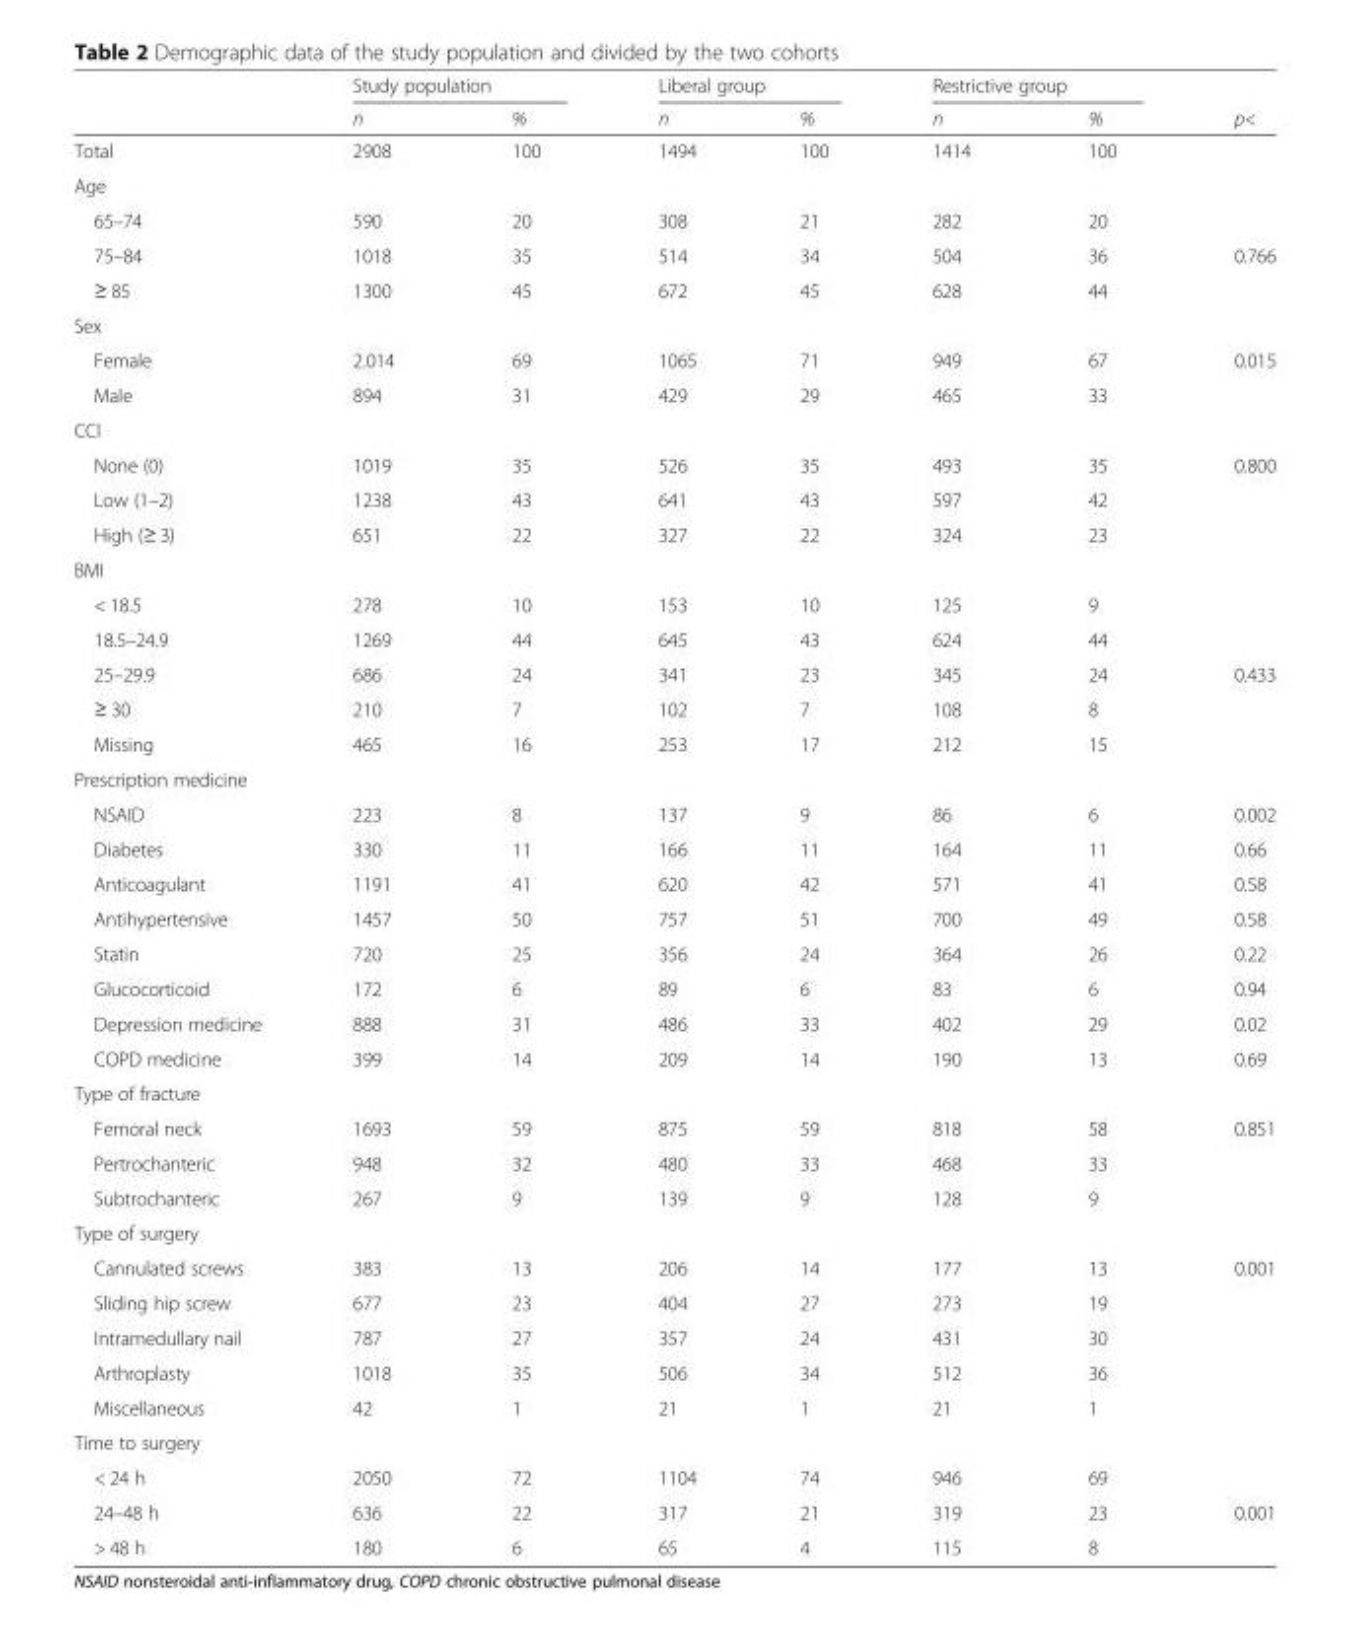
<table><thead><tr><td rowspan="2"></td><td colspan="2">Study population</td><td colspan="2">Liberal group</td><td colspan="2">Restrictive group</td><td rowspan="2">p&lt;</td></tr><tr><td>n</td><td>%</td><td>n</td><td>%</td><td>n</td><td>%</td></tr></thead><tbody><tr><td>Total</td><td>2908</td><td>100</td><td>1494</td><td>100</td><td>1414</td><td>100</td><td></td></tr><tr><td colspan="8">Age</td></tr><tr><td>65–74</td><td>590</td><td>20</td><td>308</td><td>21</td><td>282</td><td>20</td><td></td></tr><tr><td>75–84</td><td>1018</td><td>35</td><td>514</td><td>34</td><td>504</td><td>36</td><td>0.766</td></tr><tr><td>≥ 85</td><td>1300</td><td>45</td><td>672</td><td>45</td><td>628</td><td>44</td><td></td></tr><tr><td colspan="8">Sex</td></tr><tr><td>Female</td><td>2.014</td><td>69</td><td>1065</td><td>71</td><td>949</td><td>67</td><td rowspan="2">0.015</td></tr><tr><td>Male</td><td>894</td><td>31</td><td>429</td><td>29</td><td>465</td><td>33</td></tr><tr><td colspan="8">CCI</td></tr><tr><td>None (0)</td><td>1019</td><td>35</td><td>526</td><td>35</td><td>493</td><td>35</td><td rowspan="3">0.800</td></tr><tr><td>Low (1–2)</td><td>1238</td><td>43</td><td>641</td><td>43</td><td>597</td><td>42</td></tr><tr><td>High (≥ 3)</td><td>651</td><td>22</td><td>327</td><td>22</td><td>324</td><td>23</td></tr><tr><td colspan="8">BMI</td></tr><tr><td>&lt; 18.5</td><td>278</td><td>10</td><td>153</td><td>10</td><td>125</td><td>9</td><td></td></tr><tr><td>18.5–24.9</td><td>1269</td><td>44</td><td>645</td><td>43</td><td>624</td><td>44</td><td></td></tr><tr><td>25–29.9</td><td>686</td><td>24</td><td>341</td><td>23</td><td>345</td><td>24</td><td>0.433</td></tr><tr><td>≥ 30</td><td>210</td><td>7</td><td>102</td><td>7</td><td>108</td><td>8</td><td></td></tr><tr><td>Missing</td><td>465</td><td>16</td><td>253</td><td>17</td><td>212</td><td>15</td><td></td></tr><tr><td colspan="8">Prescription medicine</td></tr><tr><td>NSAID</td><td>223</td><td>8</td><td>137</td><td>9</td><td>86</td><td>6</td><td>0.002</td></tr><tr><td>Diabetes</td><td>330</td><td>11</td><td>166</td><td>11</td><td>164</td><td>11</td><td>0.66</td></tr><tr><td>Anticoagulant</td><td>1191</td><td>41</td><td>620</td><td>42</td><td>571</td><td>41</td><td>0.58</td></tr><tr><td>Antihypertensive</td><td>1457</td><td>50</td><td>757</td><td>51</td><td>700</td><td>49</td><td>0.58</td></tr><tr><td>Statin</td><td>720</td><td>25</td><td>356</td><td>24</td><td>364</td><td>26</td><td>0.22</td></tr><tr><td>Glucocorticoid</td><td>172</td><td>6</td><td>89</td><td>6</td><td>83</td><td>6</td><td>0.94</td></tr><tr><td>Depression medicine</td><td>888</td><td>31</td><td>486</td><td>33</td><td>402</td><td>29</td><td>0.02</td></tr><tr><td>COPD medicine</td><td>399</td><td>14</td><td>209</td><td>14</td><td>190</td><td>13</td><td>0.69</td></tr><tr><td colspan="8">Type of fracture</td></tr><tr><td>Femoral neck</td><td>1693</td><td>59</td><td>875</td><td>59</td><td>818</td><td>58</td><td rowspan="3">0.851</td></tr><tr><td>Pertrochanteric</td><td>948</td><td>32</td><td>480</td><td>33</td><td>468</td><td>33</td></tr><tr><td>Subtrochanteric</td><td>267</td><td>9</td><td>139</td><td>9</td><td>128</td><td>9</td></tr><tr><td colspan="8">Type of surgery</td></tr><tr><td>Cannulated screws</td><td>383</td><td>13</td><td>206</td><td>14</td><td>177</td><td>13</td><td rowspan="5">0.001</td></tr><tr><td>Sliding hip screw</td><td>677</td><td>23</td><td>404</td><td>27</td><td>273</td><td>19</td></tr><tr><td>Intramedullary nail</td><td>787</td><td>27</td><td>357</td><td>24</td><td>431</td><td>30</td></tr><tr><td>Arthroplasty</td><td>1018</td><td>35</td><td>506</td><td>34</td><td>512</td><td>36</td></tr><tr><td>Miscellaneous</td><td>42</td><td>1</td><td>21</td><td>1</td><td>21</td><td>1</td></tr><tr><td colspan="8">Time to surgery</td></tr><tr><td>&lt; 24 h</td><td>2050</td><td>72</td><td>1104</td><td>74</td><td>946</td><td>69</td><td></td></tr><tr><td>24–48 h</td><td>636</td><td>22</td><td>317</td><td>21</td><td>319</td><td>23</td><td>0.001</td></tr><tr><td>&gt; 48 h</td><td>180</td><td>6</td><td>65</td><td>4</td><td>115</td><td>8</td><td></td></tr></tbody></table>